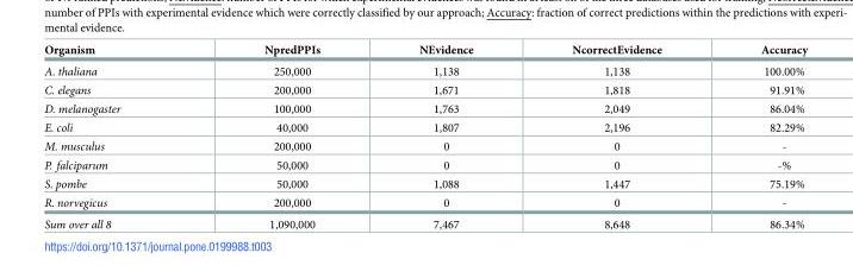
<table><thead><tr><td>Organism</td><td>NpredPPIs</td><td>NEvidence</td><td>NcorrectEvidence</td><td>Accuracy</td></tr></thead><tbody><tr><td>A. thaliana</td><td>250,000</td><td>1,138</td><td>1,138</td><td>100.00%</td></tr><tr><td>C. elegans</td><td>200,000</td><td>1,671</td><td>1,818</td><td>91.91%</td></tr><tr><td>D. melanogaster</td><td>100,000</td><td>1,763</td><td>2,049</td><td>86.04%</td></tr><tr><td>E. coli</td><td>40,000</td><td>1,807</td><td>2,196</td><td>82.29%</td></tr><tr><td>M. musculus</td><td>200,000</td><td>0</td><td>0</td><td>-</td></tr><tr><td>P. falciparum</td><td>50,000</td><td>0</td><td>0</td><td>-%</td></tr><tr><td>S. pombe</td><td>50,000</td><td>1,088</td><td>1,447</td><td>75.19%</td></tr><tr><td>R. norvegicus</td><td>200,000</td><td>0</td><td>0</td><td>-</td></tr><tr><td>Sum over all 8</td><td>1,090,000</td><td>7,467</td><td>8,648</td><td>86.34%</td></tr></tbody></table>